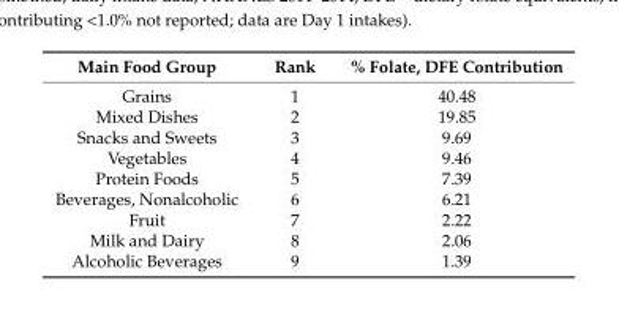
<table><thead><tr><td>Main Food Group</td><td>Rank</td><td>% Folate, DFE Contribution</td></tr></thead><tbody><tr><td>Grains</td><td>1</td><td>40.48</td></tr><tr><td>Mixed Dishes</td><td>2</td><td>19.85</td></tr><tr><td>Snacks and Sweets</td><td>3</td><td>9.69</td></tr><tr><td>Vegetables</td><td>4</td><td>9.46</td></tr><tr><td>Protein Foods</td><td>5</td><td>7.39</td></tr><tr><td>Beverages, Nonalcoholic</td><td>6</td><td>6.21</td></tr><tr><td>Fruit</td><td>7</td><td>2.22</td></tr><tr><td>Milk and Dairy</td><td>8</td><td>2.06</td></tr><tr><td>Alcoholic Beverages</td><td>9</td><td>1.39</td></tr></tbody></table>